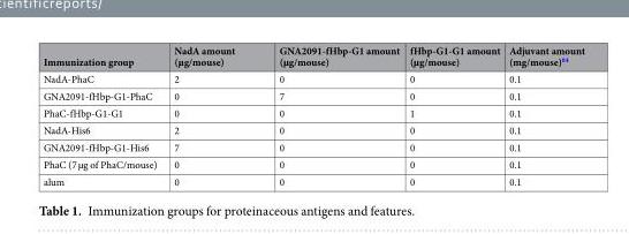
<table><thead><tr><td>Immunization group</td><td>NadA amount (µg/mouse)</td><td>GNA2091-fHbp-G1 amount (µg/mouse)</td><td>fHbp-G1-G1 amount (µg/mouse)</td><td>Adjuvant amount (mg/mouse)<sup>84</sup></td></tr></thead><tbody><tr><td>NadA-PhaC</td><td>2</td><td>0</td><td>0</td><td>0.1</td></tr><tr><td>GNA2091-fHbp-G1-PhaC</td><td>0</td><td>7</td><td>0</td><td>0.1</td></tr><tr><td>PhaC-fHbp-G1-G1</td><td>0</td><td>0</td><td>1</td><td>0.1</td></tr><tr><td>NadA-His6</td><td>2</td><td>0</td><td>0</td><td>0.1</td></tr><tr><td>GNA2091-fHbp-G1-His6</td><td>7</td><td>0</td><td>0</td><td>0.1</td></tr><tr><td>PhaC (7 µg of PhaC/mouse)</td><td>0</td><td>0</td><td>0</td><td>0.1</td></tr><tr><td>alum</td><td>0</td><td>0</td><td>0</td><td>0.1</td></tr></tbody></table>